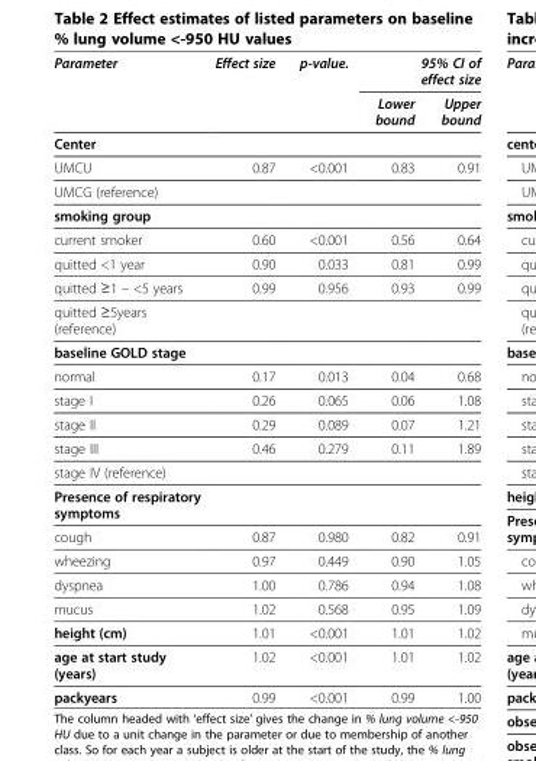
<table><thead><tr><td rowspan="2">Parameter</td><td rowspan="2">Effect size</td><td rowspan="2">p-value.</td><td colspan="2">95% CI of effect size</td></tr><tr><td>Lower bound</td><td>Upper bound</td></tr></thead><tbody><tr><td colspan="5">Center</td></tr><tr><td>UMCU</td><td>0.87</td><td>&lt;0.001</td><td>0.83</td><td>0.91</td></tr><tr><td colspan="5">UMCG (reference)</td></tr><tr><td colspan="5">smoking group</td></tr><tr><td>current smoker</td><td>0.60</td><td>&lt;0.001</td><td>0.56</td><td>0.64</td></tr><tr><td>quitted &lt;1 year</td><td>0.90</td><td>0.033</td><td>0.81</td><td>0.99</td></tr><tr><td>quitted ≥1 – &lt;5 years</td><td>0.99</td><td>0.956</td><td>0.93</td><td>0.99</td></tr><tr><td colspan="5">quitted ≥5years (reference)</td></tr><tr><td colspan="5">baseline GOLD stage</td></tr><tr><td>normal</td><td>0.17</td><td>0.013</td><td>0.04</td><td>0.68</td></tr><tr><td>stage I</td><td>0.26</td><td>0.065</td><td>0.06</td><td>1.08</td></tr><tr><td>stage II</td><td>0.29</td><td>0.089</td><td>0.07</td><td>1.21</td></tr><tr><td>stage III</td><td>0.46</td><td>0.279</td><td>0.11</td><td>1.89</td></tr><tr><td colspan="5">stage IV (reference)</td></tr><tr><td colspan="5">Presence of respiratory symptoms</td></tr><tr><td>cough</td><td>0.87</td><td>0.980</td><td>0.82</td><td>0.91</td></tr><tr><td>wheezing</td><td>0.97</td><td>0.449</td><td>0.90</td><td>1.05</td></tr><tr><td>dyspnea</td><td>1.00</td><td>0.786</td><td>0.94</td><td>1.08</td></tr><tr><td>mucus</td><td>1.02</td><td>0.568</td><td>0.95</td><td>1.09</td></tr><tr><td>height (cm)</td><td>1.01</td><td>&lt;0.001</td><td>1.01</td><td>1.02</td></tr><tr><td>age at start study (years)</td><td>1.02</td><td>&lt;0.001</td><td>1.01</td><td>1.02</td></tr><tr><td>packyears</td><td>0.99</td><td>&lt;0.001</td><td>0.99</td><td>1.00</td></tr></tbody></table>